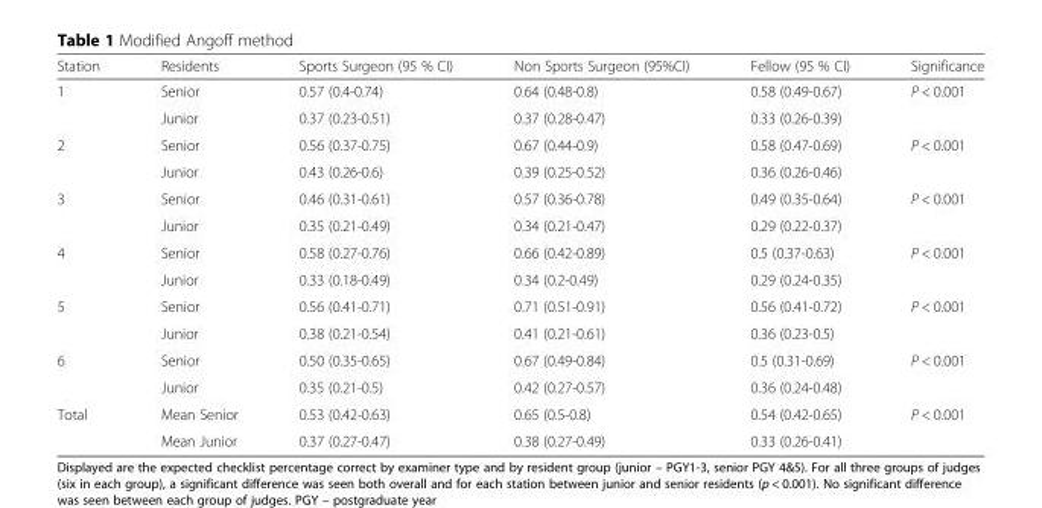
<table><thead><tr><td>Station</td><td>Residents</td><td>Sports Surgeon (95 % CI)</td><td>Non Sports Surgeon (95%CI)</td><td>Fellow (95 % CI)</td><td>Significance</td></tr></thead><tbody><tr><td rowspan="2">1</td><td>Senior</td><td>0.57 (0.4-0.74)</td><td>0.64 (0.48-0.8)</td><td>0.58 (0.49-0.67)</td><td>P &lt; 0.001</td></tr><tr><td>Junior</td><td>0.37 (0.23-0.51)</td><td>0.37 (0.28-0.47)</td><td>0.33 (0.26-0.39)</td><td></td></tr><tr><td rowspan="2">2</td><td>Senior</td><td>0.56 (0.37-0.75)</td><td>0.67 (0.44-0.9)</td><td>0.58 (0.47-0.69)</td><td>P &lt; 0.001</td></tr><tr><td>Junior</td><td>0.43 (0.26-0.6)</td><td>0.39 (0.25-0.52)</td><td>0.36 (0.26-0.46)</td><td></td></tr><tr><td rowspan="2">3</td><td>Senior</td><td>0.46 (0.31-0.61)</td><td>0.57 (0.36-0.78)</td><td>0.49 (0.35-0.64)</td><td>P &lt; 0.001</td></tr><tr><td>Junior</td><td>0.35 (0.21-0.49)</td><td>0.34 (0.21-0.47)</td><td>0.29 (0.22-0.37)</td><td></td></tr><tr><td rowspan="2">4</td><td>Senior</td><td>0.58 (0.27-0.76)</td><td>0.66 (0.42-0.89)</td><td>0.5 (0.37-0.63)</td><td>P &lt; 0.001</td></tr><tr><td>Junior</td><td>0.33 (0.18-0.49)</td><td>0.34 (0.2-0.49)</td><td>0.29 (0.24-0.35)</td><td></td></tr><tr><td rowspan="2">5</td><td>Senior</td><td>0.56 (0.41-0.71)</td><td>0.71 (0.51-0.91)</td><td>0.56 (0.41-0.72)</td><td>P &lt; 0.001</td></tr><tr><td>Junior</td><td>0.38 (0.21-0.54)</td><td>0.41 (0.21-0.61)</td><td>0.36 (0.23-0.5)</td><td></td></tr><tr><td rowspan="2">6</td><td>Senior</td><td>0.50 (0.35-0.65)</td><td>0.67 (0.49-0.84)</td><td>0.5 (0.31-0.69)</td><td>P &lt; 0.001</td></tr><tr><td>Junior</td><td>0.35 (0.21-0.5)</td><td>0.42 (0.27-0.57)</td><td>0.36 (0.24-0.48)</td><td></td></tr><tr><td rowspan="2">Total</td><td>Mean Senior</td><td>0.53 (0.42-0.63)</td><td>0.65 (0.5-0.8)</td><td>0.54 (0.42-0.65)</td><td>P &lt; 0.001</td></tr><tr><td>Mean Junior</td><td>0.37 (0.27-0.47)</td><td>0.38 (0.27-0.49)</td><td>0.33 (0.26-0.41)</td><td></td></tr></tbody></table>